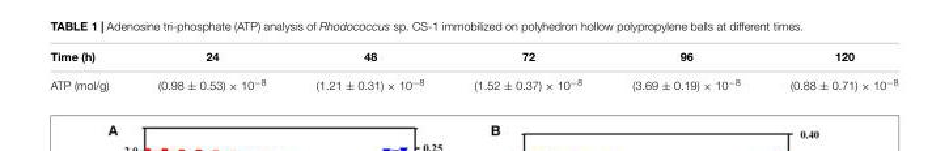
<table><thead><tr><td>Time (h)</td><td>24</td><td>48</td><td>72</td><td>96</td><td>120</td></tr></thead><tbody><tr><td>ATP (mol/g)</td><td>(0.98 ± 0.53) × 10<sup>−8</sup></td><td>(1.21 ± 0.31) × 10<sup>−8</sup></td><td>(1.52 ± 0.37) × 10<sup>−8</sup></td><td>(3.69 ± 0.19) × 10<sup>−8</sup></td><td>(0.88 ± 0.71) × 10<sup>−8</sup></td></tr></tbody></table>